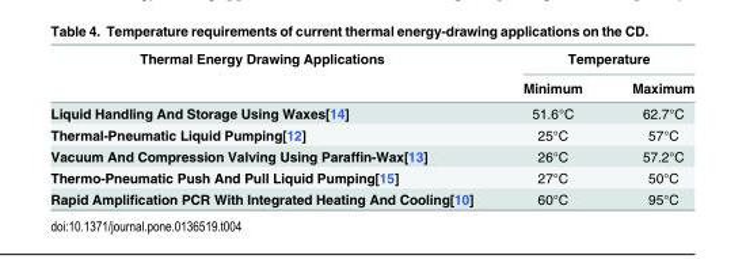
<table><thead><tr><td rowspan="2">Thermal Energy Drawing Applications</td><td colspan="2">Temperature</td></tr><tr><td>Minimum</td><td>Maximum</td></tr></thead><tbody><tr><td>Liquid Handling And Storage Using Waxes[14]</td><td>51.6°C</td><td>62.7°C</td></tr><tr><td>Thermal-Pneumatic Liquid Pumping[12]</td><td>25°C</td><td>57°C</td></tr><tr><td>Vacuum And Compression Valving Using Paraffin-Wax[13]</td><td>26°C</td><td>57.2°C</td></tr><tr><td>Thermo-Pneumatic Push And Pull Liquid Pumping[15]</td><td>27°C</td><td>50°C</td></tr><tr><td>Rapid Amplification PCR With Integrated Heating And Cooling[10]</td><td>60°C</td><td>95°C</td></tr></tbody></table>